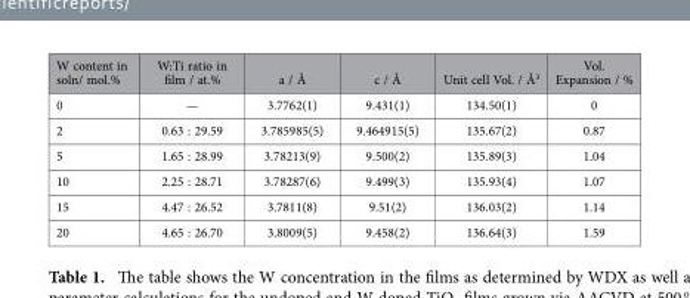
<table><thead><tr><td>W content in soln/ mol.%</td><td>W:Ti ratio in film / at.%</td><td>a / Å</td><td>c / Å</td><td>Unit cell Vol. / Å<sup>3</sup></td><td>Vol. Expansion / %</td></tr></thead><tbody><tr><td>0</td><td>—</td><td>3.7762(1)</td><td>9.431(1)</td><td>134.50(1)</td><td>0</td></tr><tr><td>2</td><td>0.63 : 29.59</td><td>3.785985(5)</td><td>9.464915(5)</td><td>135.67(2)</td><td>0.87</td></tr><tr><td>5</td><td>1.65 : 28.99</td><td>3.78213(9)</td><td>9.500(2)</td><td>135.89(3)</td><td>1.04</td></tr><tr><td>10</td><td>2.25 : 28.71</td><td>3.78287(6)</td><td>9.499(3)</td><td>135.93(4)</td><td>1.07</td></tr><tr><td>15</td><td>4.47 : 26.52</td><td>3.7811(8)</td><td>9.51(2)</td><td>136.03(2)</td><td>1.14</td></tr><tr><td>20</td><td>4.65 : 26.70</td><td>3.8009(5)</td><td>9.458(2)</td><td>136.64(3)</td><td>1.59</td></tr></tbody></table>